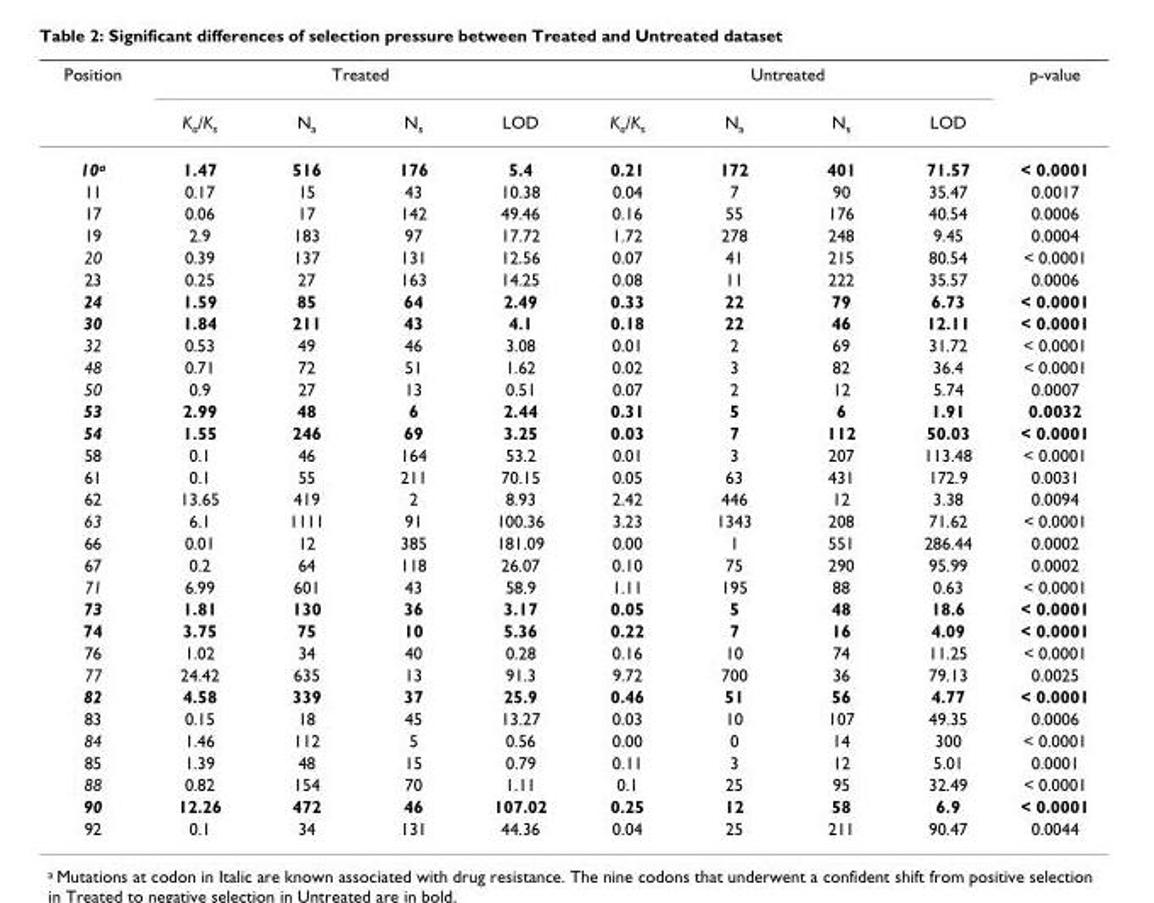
<table><thead><tr><td rowspan="2">Position</td><td colspan="4">Treated</td><td colspan="4">Untreated</td><td rowspan="2">p-value</td></tr><tr><td>K<sub>a</sub>/K<sub>s</sub></td><td>N<sub>a</sub></td><td>N<sub>s</sub></td><td>LOD</td><td>K<sub>a</sub>/K<sub>s</sub></td><td>N<sub>a</sub></td><td>N<sub>s</sub></td><td>LOD</td></tr></thead><tbody><tr><td>10<sup>a</sup></td><td>1.47</td><td>516</td><td>176</td><td>5.4</td><td>0.21</td><td>172</td><td>401</td><td>71.57</td><td>&lt; 0.0001</td></tr><tr><td>11</td><td>0.17</td><td>15</td><td>43</td><td>10.38</td><td>0.04</td><td>7</td><td>90</td><td>35.47</td><td>0.0017</td></tr><tr><td>17</td><td>0.06</td><td>17</td><td>142</td><td>49.46</td><td>0.16</td><td>55</td><td>176</td><td>40.54</td><td>0.0006</td></tr><tr><td>19</td><td>2.9</td><td>183</td><td>97</td><td>17.72</td><td>1.72</td><td>278</td><td>248</td><td>9.45</td><td>0.0004</td></tr><tr><td>20</td><td>0.39</td><td>137</td><td>131</td><td>12.56</td><td>0.07</td><td>41</td><td>215</td><td>80.54</td><td>&lt; 0.0001</td></tr><tr><td>23</td><td>0.25</td><td>27</td><td>163</td><td>14.25</td><td>0.08</td><td>11</td><td>222</td><td>35.57</td><td>0.0006</td></tr><tr><td>24</td><td>1.59</td><td>85</td><td>64</td><td>2.49</td><td>0.33</td><td>22</td><td>79</td><td>6.73</td><td>&lt; 0.0001</td></tr><tr><td>30</td><td>1.84</td><td>211</td><td>43</td><td>4.1</td><td>0.18</td><td>22</td><td>46</td><td>12.11</td><td>&lt; 0.0001</td></tr><tr><td>32</td><td>0.53</td><td>49</td><td>46</td><td>3.08</td><td>0.01</td><td>2</td><td>69</td><td>31.72</td><td>&lt; 0.0001</td></tr><tr><td>48</td><td>0.71</td><td>72</td><td>51</td><td>1.62</td><td>0.02</td><td>3</td><td>82</td><td>36.4</td><td>&lt; 0.0001</td></tr><tr><td>50</td><td>0.9</td><td>27</td><td>13</td><td>0.51</td><td>0.07</td><td>2</td><td>12</td><td>5.74</td><td>0.0007</td></tr><tr><td>53</td><td>2.99</td><td>48</td><td>6</td><td>2.44</td><td>0.31</td><td>5</td><td>6</td><td>1.91</td><td>0.0032</td></tr><tr><td>54</td><td>1.55</td><td>246</td><td>69</td><td>3.25</td><td>0.03</td><td>7</td><td>112</td><td>50.03</td><td>&lt; 0.0001</td></tr><tr><td>58</td><td>0.1</td><td>46</td><td>164</td><td>53.2</td><td>0.01</td><td>3</td><td>207</td><td>113.48</td><td>&lt; 0.0001</td></tr><tr><td>61</td><td>0.1</td><td>55</td><td>211</td><td>70.15</td><td>0.05</td><td>63</td><td>431</td><td>172.9</td><td>0.0031</td></tr><tr><td>62</td><td>13.65</td><td>419</td><td>2</td><td>8.93</td><td>2.42</td><td>446</td><td>12</td><td>3.38</td><td>0.0094</td></tr><tr><td>63</td><td>6.1</td><td>1111</td><td>91</td><td>100.36</td><td>3.23</td><td>1343</td><td>208</td><td>71.62</td><td>&lt; 0.0001</td></tr><tr><td>66</td><td>0.01</td><td>12</td><td>385</td><td>181.09</td><td>0.00</td><td>1</td><td>551</td><td>286.44</td><td>0.0002</td></tr><tr><td>67</td><td>0.2</td><td>64</td><td>118</td><td>26.07</td><td>0.10</td><td>75</td><td>290</td><td>95.99</td><td>0.0002</td></tr><tr><td>71</td><td>6.99</td><td>601</td><td>43</td><td>58.9</td><td>1.11</td><td>195</td><td>88</td><td>0.63</td><td>&lt; 0.0001</td></tr><tr><td>73</td><td>1.81</td><td>130</td><td>36</td><td>3.17</td><td>0.05</td><td>5</td><td>48</td><td>18.6</td><td>&lt; 0.0001</td></tr><tr><td>74</td><td>3.75</td><td>75</td><td>10</td><td>5.36</td><td>0.22</td><td>7</td><td>16</td><td>4.09</td><td>&lt; 0.0001</td></tr><tr><td>76</td><td>1.02</td><td>34</td><td>40</td><td>0.28</td><td>0.16</td><td>10</td><td>74</td><td>11.25</td><td>&lt; 0.0001</td></tr><tr><td>77</td><td>24.42</td><td>635</td><td>13</td><td>91.3</td><td>9.72</td><td>700</td><td>36</td><td>79.13</td><td>0.0025</td></tr><tr><td>82</td><td>4.58</td><td>339</td><td>37</td><td>25.9</td><td>0.46</td><td>51</td><td>56</td><td>4.77</td><td>&lt; 0.0001</td></tr><tr><td>83</td><td>0.15</td><td>18</td><td>45</td><td>13.27</td><td>0.03</td><td>10</td><td>107</td><td>49.35</td><td>0.0006</td></tr><tr><td>84</td><td>1.46</td><td>112</td><td>5</td><td>0.56</td><td>0.00</td><td>0</td><td>14</td><td>300</td><td>&lt; 0.0001</td></tr><tr><td>85</td><td>1.39</td><td>48</td><td>15</td><td>0.79</td><td>0.11</td><td>3</td><td>12</td><td>5.01</td><td>0.0001</td></tr><tr><td>88</td><td>0.82</td><td>154</td><td>70</td><td>1.11</td><td>0.1</td><td>25</td><td>95</td><td>32.49</td><td>&lt; 0.0001</td></tr><tr><td>90</td><td>12.26</td><td>472</td><td>46</td><td>107.02</td><td>0.25</td><td>12</td><td>58</td><td>6.9</td><td>&lt; 0.0001</td></tr><tr><td>92</td><td>0.1</td><td>34</td><td>131</td><td>44.36</td><td>0.04</td><td>25</td><td>211</td><td>90.47</td><td>0.0044</td></tr></tbody></table>